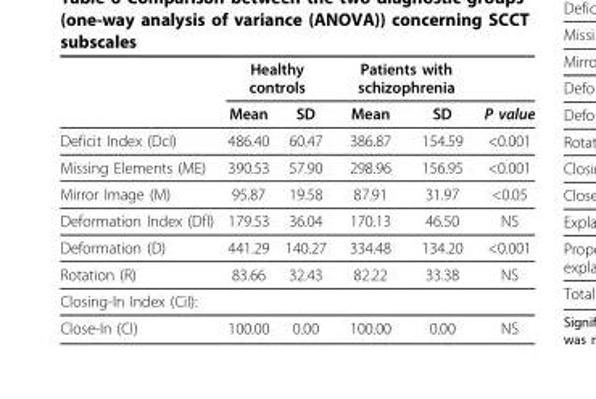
<table><thead><tr><td rowspan="2"></td><td colspan="2">Healthy controls</td><td colspan="2">Patients with schizophrenia</td><td rowspan="2">P value</td></tr><tr><td>Mean</td><td>SD</td><td>Mean</td><td>SD</td></tr></thead><tbody><tr><td>Deficit Index (DcI)</td><td>486.40</td><td>60.47</td><td>386.87</td><td>154.59</td><td>&lt;0.001</td></tr><tr><td>Missing Elements (ME)</td><td>390.53</td><td>57.90</td><td>298.96</td><td>156.95</td><td>&lt;0.001</td></tr><tr><td>Mirror Image (M)</td><td>95.87</td><td>19.58</td><td>87.91</td><td>31.97</td><td>&lt;0.05</td></tr><tr><td>Deformation Index (DfI)</td><td>179.53</td><td>36.04</td><td>170.13</td><td>46.50</td><td>NS</td></tr><tr><td>Deformation (D)</td><td>441.29</td><td>140.27</td><td>334.48</td><td>134.20</td><td>&lt;0.001</td></tr><tr><td>Rotation (R)</td><td>83.66</td><td>32.43</td><td>82.22</td><td>33.38</td><td>NS</td></tr><tr><td colspan="6">Closing-In Index (CiI):</td></tr><tr><td>Close-In (CI)</td><td>100.00</td><td>0.00</td><td>100.00</td><td>0.00</td><td>NS</td></tr></tbody></table>